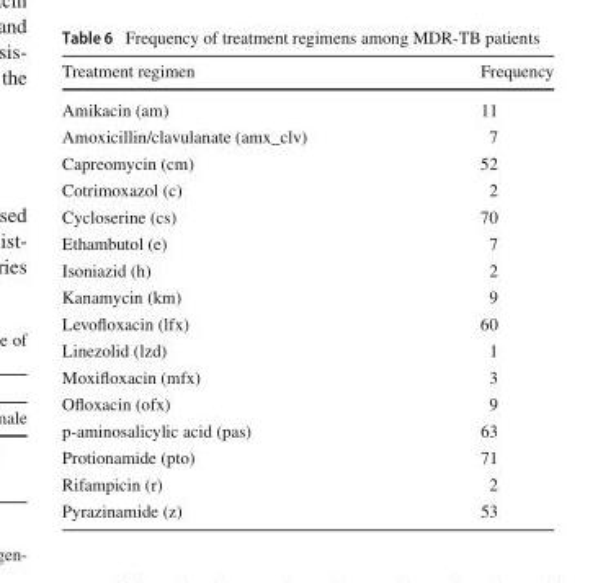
<table><thead><tr><td>Treatment regimen</td><td>Frequency</td></tr></thead><tbody><tr><td>Amikacin (am)</td><td>11</td></tr><tr><td>Amoxicillin/clavulanate (amx_clv)</td><td>7</td></tr><tr><td>Capreomycin (cm)</td><td>52</td></tr><tr><td>Cotrimoxazol (c)</td><td>2</td></tr><tr><td>Cycloserine (cs)</td><td>70</td></tr><tr><td>Ethambutol (e)</td><td>7</td></tr><tr><td>Isoniazid (h)</td><td>2</td></tr><tr><td>Kanamycin (km)</td><td>9</td></tr><tr><td>Levofloxacin (lfx)</td><td>60</td></tr><tr><td>Linezolid (lzd)</td><td>1</td></tr><tr><td>Moxifloxacin (mfx)</td><td>3</td></tr><tr><td>Ofloxacin (ofx)</td><td>9</td></tr><tr><td>p-aminosalicylic acid (pas)</td><td>63</td></tr><tr><td>Protionamide (pto)</td><td>71</td></tr><tr><td>Rifampicin (r)</td><td>2</td></tr><tr><td>Pyrazinamide (z)</td><td>53</td></tr></tbody></table>